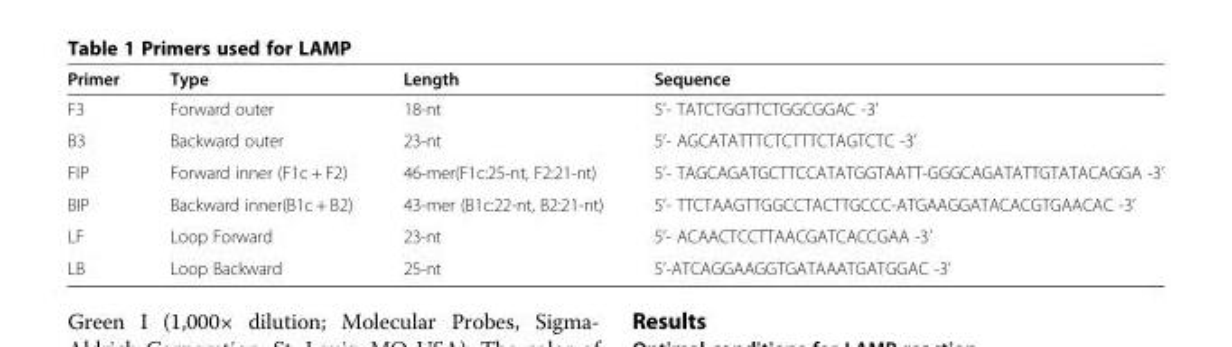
<table><thead><tr><td>Primer</td><td>Type</td><td>Length</td><td>Sequence</td></tr></thead><tbody><tr><td>F3</td><td>Forward outer</td><td>18-nt</td><td>5’- TATCTGGTTCTGGCGGAC -3’</td></tr><tr><td>B3</td><td>Backward outer</td><td>23-nt</td><td>5’- AGCATATTTCTCTTTCTAGTCTC -3’</td></tr><tr><td>FIP</td><td>Forward inner (F1c + F2)</td><td>46-mer(F1c:25-nt, F2:21-nt)</td><td>5’- TAGCAGATGCTTCCATATGGTAATT-GGGCAGATATTGTATACAGGA -3’</td></tr><tr><td>BIP</td><td>Backward inner(B1c + B2)</td><td>43-mer (B1c:22-nt, B2:21-nt)</td><td>5’- TTCTAAGTTGGCCTACTTGCCC-ATGAAGGATACACGTGAACAC -3’</td></tr><tr><td>LF</td><td>Loop Forward</td><td>23-nt</td><td>5’- ACAACTCCTTAACGATCACCGAA -3’</td></tr><tr><td>LB</td><td>Loop Backward</td><td>25-nt</td><td>5’-ATCAGGAAGGTGATAAATGATGGAC -3’</td></tr></tbody></table>